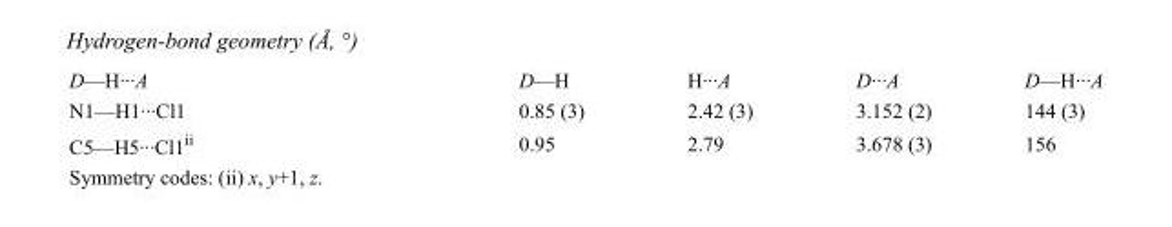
<table><tbody><tr><td>D—H···A</td><td>D—H</td><td>H···A</td><td>D···A</td><td>D—H···A</td></tr><tr><td>N1—H1···Cl1</td><td>0.85 (3)</td><td>2.42 (3)</td><td>3.152 (2)</td><td>144 (3)</td></tr><tr><td>C5—H5···Cl1<sup>ii</sup></td><td>0.95</td><td>2.79</td><td>3.678 (3)</td><td>156</td></tr></tbody></table>